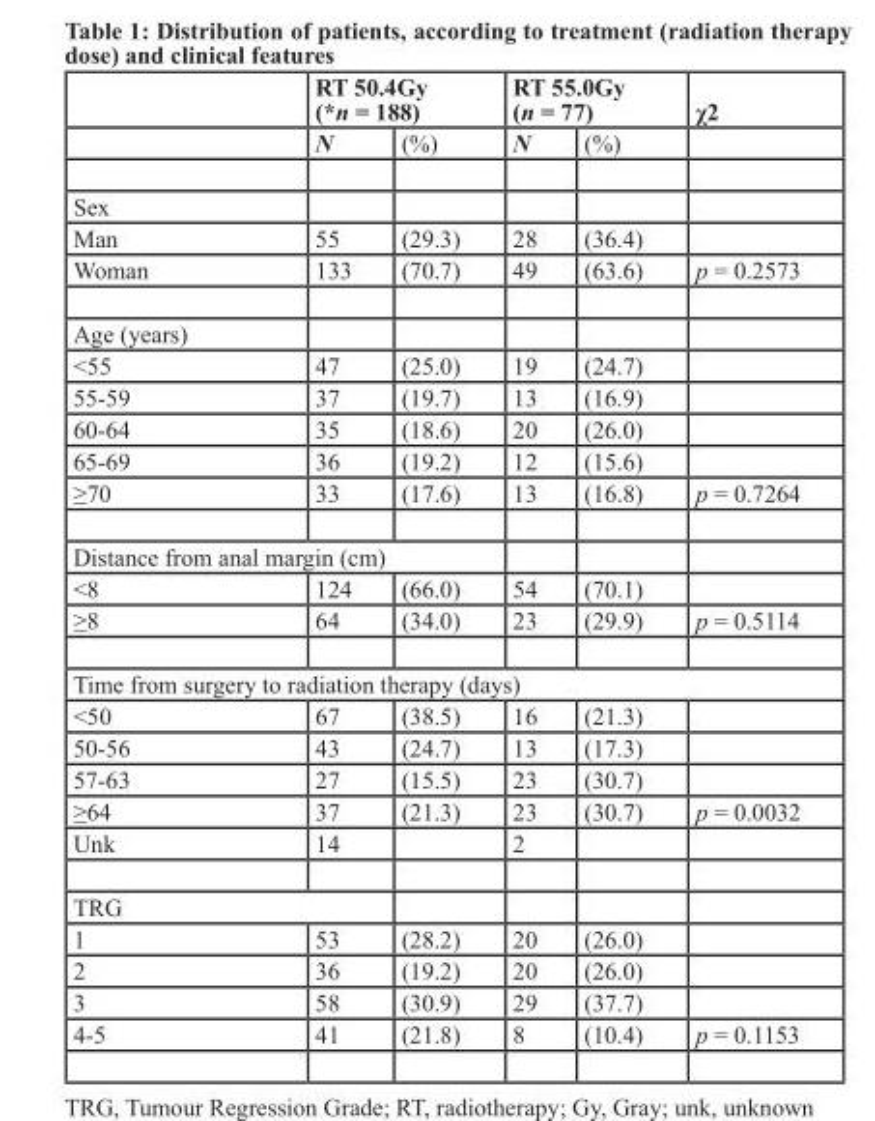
<table><thead><tr><td rowspan="2"></td><td colspan="2">RT 50.4Gy (*n = 188)</td><td colspan="2">RT 55.0Gy (n = 77)</td><td rowspan="2">χ2</td></tr><tr><td>N</td><td>(%)</td><td>N</td><td>(%)</td></tr></thead><tbody><tr><td colspan="6">Sex</td></tr><tr><td>Man</td><td>55</td><td>(29.3)</td><td>28</td><td>(36.4)</td><td></td></tr><tr><td>Woman</td><td>133</td><td>(70.7)</td><td>49</td><td>(63.6)</td><td>p = 0.2573</td></tr><tr><td colspan="6">Age (years)</td></tr><tr><td>&lt;55</td><td>47</td><td>(25.0)</td><td>19</td><td>(24.7)</td><td></td></tr><tr><td>55-59</td><td>37</td><td>(19.7)</td><td>13</td><td>(16.9)</td><td></td></tr><tr><td>60-64</td><td>35</td><td>(18.6)</td><td>20</td><td>(26.0)</td><td></td></tr><tr><td>65-69</td><td>36</td><td>(19.2)</td><td>12</td><td>(15.6)</td><td></td></tr><tr><td>≥70</td><td>33</td><td>(17.6)</td><td>13</td><td>(16.8)</td><td>p = 0.7264</td></tr><tr><td colspan="6">Distance from anal margin (cm)</td></tr><tr><td>&lt;8</td><td>124</td><td>(66.0)</td><td>54</td><td>(70.1)</td><td></td></tr><tr><td>≥8</td><td>64</td><td>(34.0)</td><td>23</td><td>(29.9)</td><td>p = 0.5114</td></tr><tr><td colspan="6">Time from surgery to radiation therapy (days)</td></tr><tr><td>&lt;50</td><td>67</td><td>(38.5)</td><td>16</td><td>(21.3)</td><td></td></tr><tr><td>50-56</td><td>43</td><td>(24.7)</td><td>13</td><td>(17.3)</td><td></td></tr><tr><td>57-63</td><td>27</td><td>(15.5)</td><td>23</td><td>(30.7)</td><td></td></tr><tr><td>≥64</td><td>37</td><td>(21.3)</td><td>23</td><td>(30.7)</td><td>p = 0.0032</td></tr><tr><td>Unk</td><td>14</td><td></td><td>2</td><td></td><td></td></tr><tr><td colspan="6">TRG</td></tr><tr><td>1</td><td>53</td><td>(28.2)</td><td>20</td><td>(26.0)</td><td></td></tr><tr><td>2</td><td>36</td><td>(19.2)</td><td>20</td><td>(26.0)</td><td></td></tr><tr><td>3</td><td>58</td><td>(30.9)</td><td>29</td><td>(37.7)</td><td></td></tr><tr><td>4-5</td><td>41</td><td>(21.8)</td><td>8</td><td>(10.4)</td><td>p = 0.1153</td></tr></tbody></table>